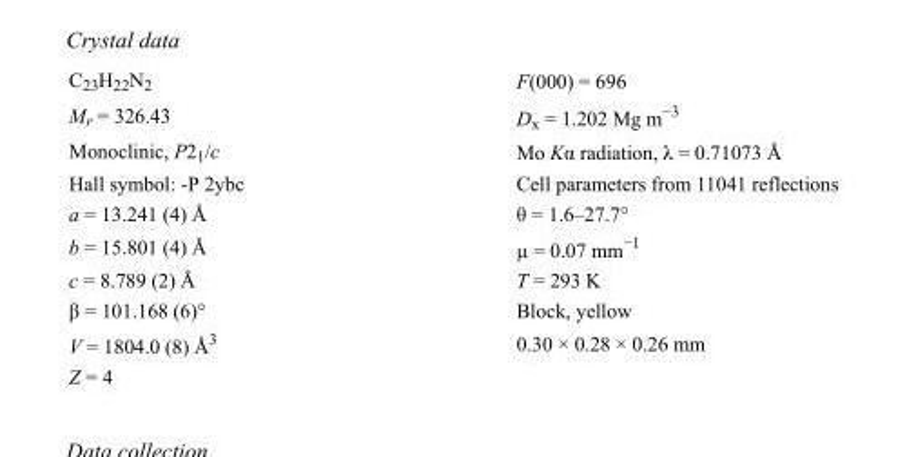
<table><tbody><tr><td>C<sub>23</sub>H<sub>22</sub>N<sub>2</sub></td><td>F(000) = 696</td></tr><tr><td>M<sub>r</sub> = 326.43</td><td>D<sub>x</sub> = 1.202 Mg m<sup>−3</sup></td></tr><tr><td>Monoclinic, P2<sub>1</sub>/c</td><td>Mo Kα radiation, λ = 0.71073 Å</td></tr><tr><td>Hall symbol: -P 2ybc</td><td>Cell parameters from 11041 reflections</td></tr><tr><td>a = 13.241 (4) Å</td><td>θ = 1.6–27.7°</td></tr><tr><td>b = 15.801 (4) Å</td><td>µ = 0.07 mm<sup>−1</sup></td></tr><tr><td>c = 8.789 (2) Å</td><td>T = 293 K</td></tr><tr><td>β = 101.168 (6)°</td><td>Block, yellow</td></tr><tr><td>V = 1804.0 (8) Å<sup>3</sup></td><td>0.30 × 0.28 × 0.26 mm</td></tr><tr><td>Z = 4</td><td></td></tr></tbody></table>